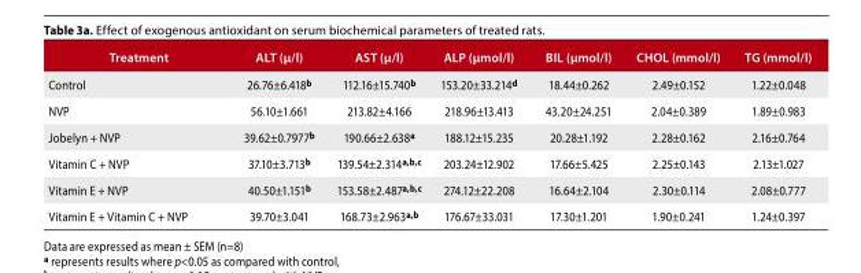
<table><thead><tr><td>Treatment</td><td>ALT (μ/l)</td><td>AST (μ/l)</td><td>ALP (μmol/l)</td><td>BIL (μmol/l)</td><td>CHOL (mmol/l)</td><td>TG (mmol/l)</td></tr></thead><tbody><tr><td>Control</td><td>26.76±6.418<sup>b</sup></td><td>112.16±15.740<sup>b</sup></td><td>153.20±33.214<sup>d</sup></td><td>18.44±0.262</td><td>2.49±0.152</td><td>1.22±0.048</td></tr><tr><td>NVP</td><td>56.10±1.661</td><td>213.82±4.166</td><td>218.96±13.413</td><td>43.20±24.251</td><td>2.04±0.389</td><td>1.89±0.983</td></tr><tr><td>Jobelyn + NVP</td><td>39.62±0.7977<sup>b</sup></td><td>190.66±2.638<sup>a</sup></td><td>188.12±15.235</td><td>20.28±1.192</td><td>2.28±0.162</td><td>2.16±0.764</td></tr><tr><td>Vitamin C + NVP</td><td>37.10±3.713<sup>b</sup></td><td>139.54±2.314<sup>a,b,c</sup></td><td>203.24±12.902</td><td>17.66±5.425</td><td>2.25±0.143</td><td>2.13±1.027</td></tr><tr><td>Vitamin E + NVP</td><td>40.50±1.151<sup>b</sup></td><td>153.58±2.487<sup>a,b,c</sup></td><td>274.12±22.208</td><td>16.64±2.104</td><td>2.30±0.114</td><td>2.08±0.777</td></tr><tr><td>Vitamin E + Vitamin C + NVP</td><td>39.70±3.041</td><td>168.73±2.963<sup>a,b</sup></td><td>176.67±33.031</td><td>17.30±1.201</td><td>1.90±0.241</td><td>1.24±0.397</td></tr></tbody></table>